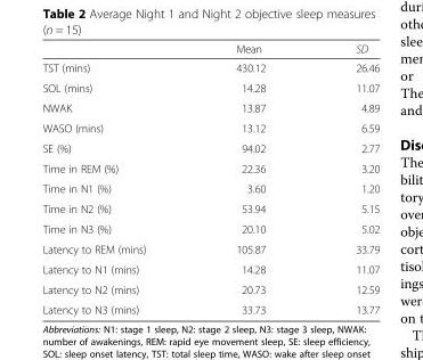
<table><thead><tr><td></td><td>Mean</td><td>SD</td></tr></thead><tbody><tr><td>TST (mins)</td><td>430.12</td><td>26.46</td></tr><tr><td>SOL (mins)</td><td>14.28</td><td>11.07</td></tr><tr><td>NWAK</td><td>13.87</td><td>4.89</td></tr><tr><td>WASO (mins)</td><td>13.12</td><td>6.59</td></tr><tr><td>SE (%)</td><td>94.02</td><td>2.77</td></tr><tr><td>Time in REM (%)</td><td>22.36</td><td>3.20</td></tr><tr><td>Time in N1 (%)</td><td>3.60</td><td>1.20</td></tr><tr><td>Time in N2 (%)</td><td>53.94</td><td>5.15</td></tr><tr><td>Time in N3 (%)</td><td>20.10</td><td>5.02</td></tr><tr><td>Latency to REM (mins)</td><td>105.87</td><td>33.79</td></tr><tr><td>Latency to N1 (mins)</td><td>14.28</td><td>11.07</td></tr><tr><td>Latency to N2 (mins)</td><td>20.73</td><td>12.59</td></tr><tr><td>Latency to N3 (mins)</td><td>33.73</td><td>13.77</td></tr></tbody></table>